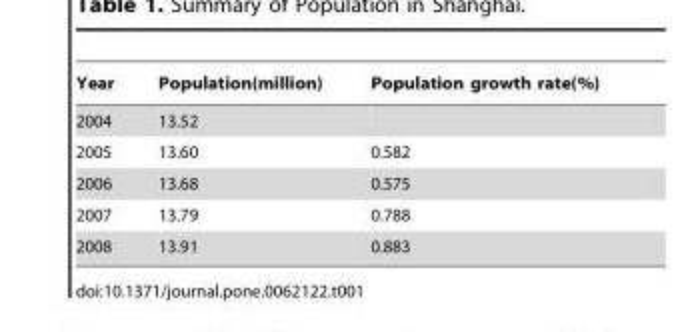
<table><thead><tr><td>Year</td><td>Population(million)</td><td>Population growth rate(%)</td></tr></thead><tbody><tr><td>2004</td><td>13.52</td><td></td></tr><tr><td>2005</td><td>13.60</td><td>0.582</td></tr><tr><td>2006</td><td>13.68</td><td>0.575</td></tr><tr><td>2007</td><td>13.79</td><td>0.788</td></tr><tr><td>2008</td><td>13.91</td><td>0.883</td></tr></tbody></table>